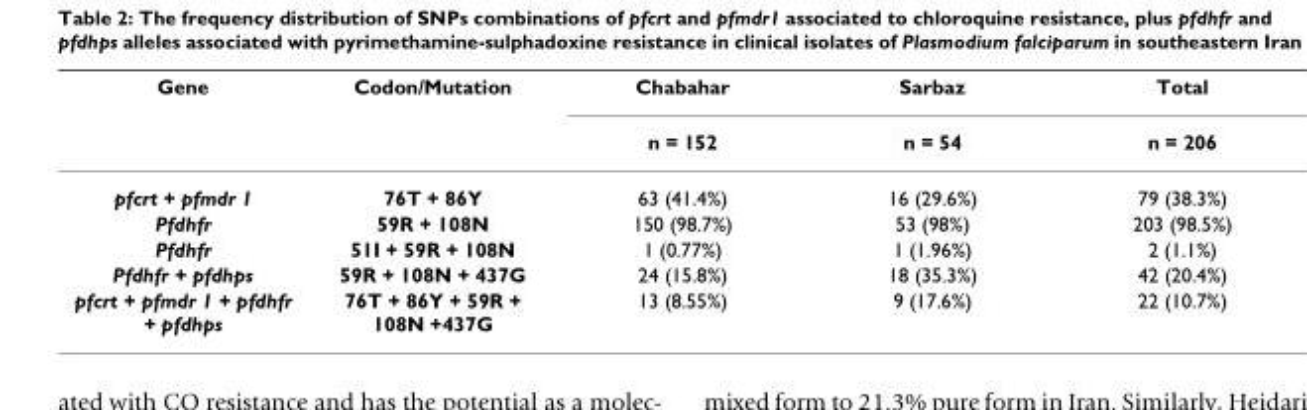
<table><thead><tr><td rowspan="2">Gene</td><td rowspan="2">Codon/Mutation</td><td rowspan="2">Chabahar n = 152</td><td rowspan="2">Sarbaz n = 54</td><td rowspan="2">Total n = 206</td></tr><tr></tr></thead><tbody><tr><td>pfcrt + pfmdr 1</td><td>76T + 86Y</td><td>63 (41.4%)</td><td>16 (29.6%)</td><td>79 (38.3%)</td></tr><tr><td>Pfdhfr</td><td>59R + 108N</td><td>150 (98.7%)</td><td>53 (98%)</td><td>203 (98.5%)</td></tr><tr><td>Pfdhfr</td><td>51I + 59R + 108N</td><td>1 (0.77%)</td><td>1 (1.96%)</td><td>2 (1.1%)</td></tr><tr><td>Pfdhfr + pfdhps</td><td>59R + 108N + 437G</td><td>24 (15.8%)</td><td>18 (35.3%)</td><td>42 (20.4%)</td></tr><tr><td>pfcrt + pfmdr 1 + pfdhfr + pfdhps</td><td>76T + 86Y + 59R + 108N +437G</td><td>13 (8.55%)</td><td>9 (17.6%)</td><td>22 (10.7%)</td></tr></tbody></table>